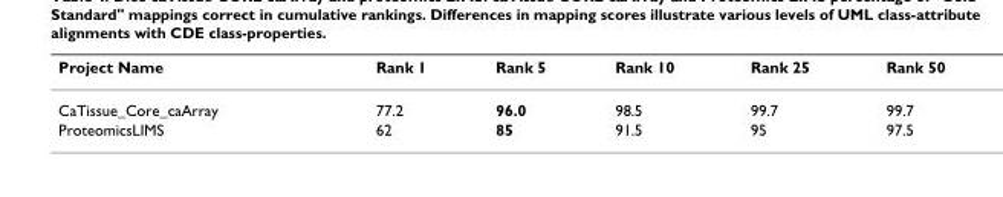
<table><thead><tr><td>Project Name</td><td>Rank 1</td><td>Rank 5</td><td>Rank 10</td><td>Rank 25</td><td>Rank 50</td></tr></thead><tbody><tr><td>CaTissue_Core_caArray</td><td>77.2</td><td>96.0</td><td>98.5</td><td>99.7</td><td>99.7</td></tr><tr><td>ProteomicsLIMS</td><td>62</td><td>85</td><td>91.5</td><td>95</td><td>97.5</td></tr></tbody></table>